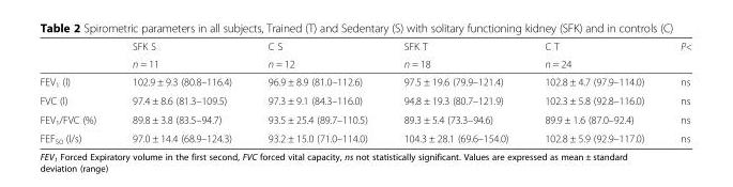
<table><thead><tr><td rowspan="2"></td><td rowspan="2">SFK S n = 11</td><td rowspan="2">C S n = 12</td><td rowspan="2">SFK T n = 18</td><td rowspan="2">C T n = 24</td><td rowspan="2">P&lt;</td></tr><tr></tr></thead><tbody><tr><td>FEV<sub>1</sub> (l)</td><td>102.9 ± 9.3 (80.8–116.4)</td><td>96.9 ± 8.9 (81.0–112.6)</td><td>97.5 ± 19.6 (79.9–121.4)</td><td>102.8 ± 4.7 (97.9–114.0)</td><td>ns</td></tr><tr><td>FVC (l)</td><td>97.4 ± 8.6 (81.3–109.5)</td><td>97.3 ± 9.1 (84.3–116.0)</td><td>94.8 ± 19.3 (80.7–121.9)</td><td>102.3 ± 5.8 (92.8–116.0)</td><td>ns</td></tr><tr><td>FEV<sub>1</sub>/FVC (%)</td><td>89.8 ± 3.8 (83.5–94.7)</td><td>93.5 ± 25.4 (89.7–110.5)</td><td>89.3 ± 5.4 (73.3–94.6)</td><td>89.9 ± 1.6 (87.0–92.4)</td><td>ns</td></tr><tr><td>FEF<sub>50</sub> (l/s)</td><td>97.0 ± 14.4 (68.9–124.3)</td><td>93.2 ± 15.0 (71.0–114.0)</td><td>104.3 ± 28.1 (69.6–154.0)</td><td>102.8 ± 5.9 (92.9–117.0)</td><td>ns</td></tr></tbody></table>